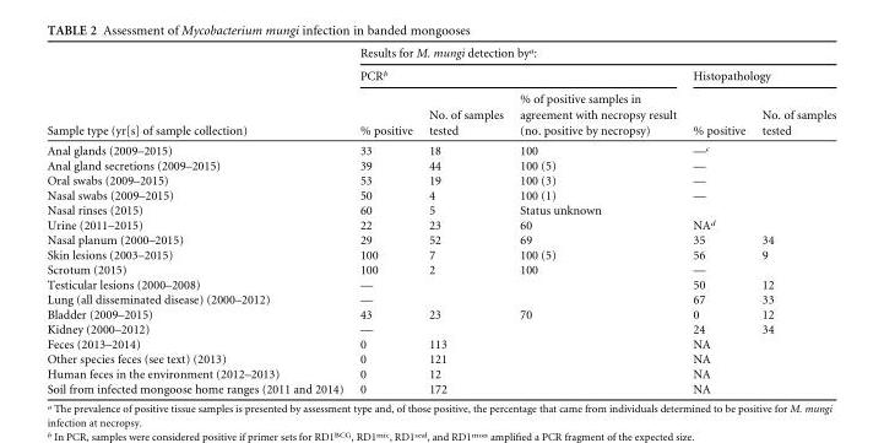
<table><thead><tr><td rowspan="3">Sample type (yr[s] of sample collection)</td><td colspan="5">Results for M. mungi detection by<sup>a</sup>:</td></tr><tr><td colspan="3">PCR<sup>b</sup></td><td colspan="2">Histopathology</td></tr><tr><td>% positive</td><td>No. of samples tested</td><td>% of positive samples in agreement with necropsy result (no. positive by necropsy)</td><td>% positive</td><td>No. of samples tested</td></tr></thead><tbody><tr><td>Anal glands (2009–2015)</td><td>33</td><td>18</td><td>100</td><td>—<sup>c</sup></td><td></td></tr><tr><td>Anal gland secretions (2009–2015)</td><td>39</td><td>44</td><td>100 (5)</td><td>—</td><td></td></tr><tr><td>Oral swabs (2009–2015)</td><td>53</td><td>19</td><td>100 (3)</td><td>—</td><td></td></tr><tr><td>Nasal swabs (2009–2015)</td><td>50</td><td>4</td><td>100 (1)</td><td>—</td><td></td></tr><tr><td>Nasal rinses (2015)</td><td>60</td><td>5</td><td>Status unknown</td><td></td><td></td></tr><tr><td>Urine (2011–2015)</td><td>22</td><td>23</td><td>60</td><td>NA<sup>d</sup></td><td></td></tr><tr><td>Nasal planum (2000–2015)</td><td>29</td><td>52</td><td>69</td><td>35</td><td>34</td></tr><tr><td>Skin lesions (2003–2015)</td><td>100</td><td>7</td><td>100 (5)</td><td>56</td><td>9</td></tr><tr><td>Scrotum (2015)</td><td>100</td><td>2</td><td>100</td><td>—</td><td></td></tr><tr><td>Testicular lesions (2000–2008)</td><td>—</td><td></td><td></td><td>50</td><td>12</td></tr><tr><td>Lung (all disseminated disease) (2000–2012)</td><td>—</td><td></td><td></td><td>67</td><td>33</td></tr><tr><td>Bladder (2009–2015)</td><td>43</td><td>23</td><td>70</td><td>0</td><td>12</td></tr><tr><td>Kidney (2000–2012)</td><td>—</td><td></td><td></td><td>24</td><td>34</td></tr><tr><td>Feces (2013–2014)</td><td>0</td><td>113</td><td></td><td>NA</td><td></td></tr><tr><td>Other species feces (see text) (2013)</td><td>0</td><td>121</td><td></td><td>NA</td><td></td></tr><tr><td>Human feces in the environment (2012–2013)</td><td>0</td><td>12</td><td></td><td>NA</td><td></td></tr><tr><td>Soil from infected mongoose home ranges (2011 and 2014)</td><td>0</td><td>172</td><td></td><td>NA</td><td></td></tr></tbody></table>